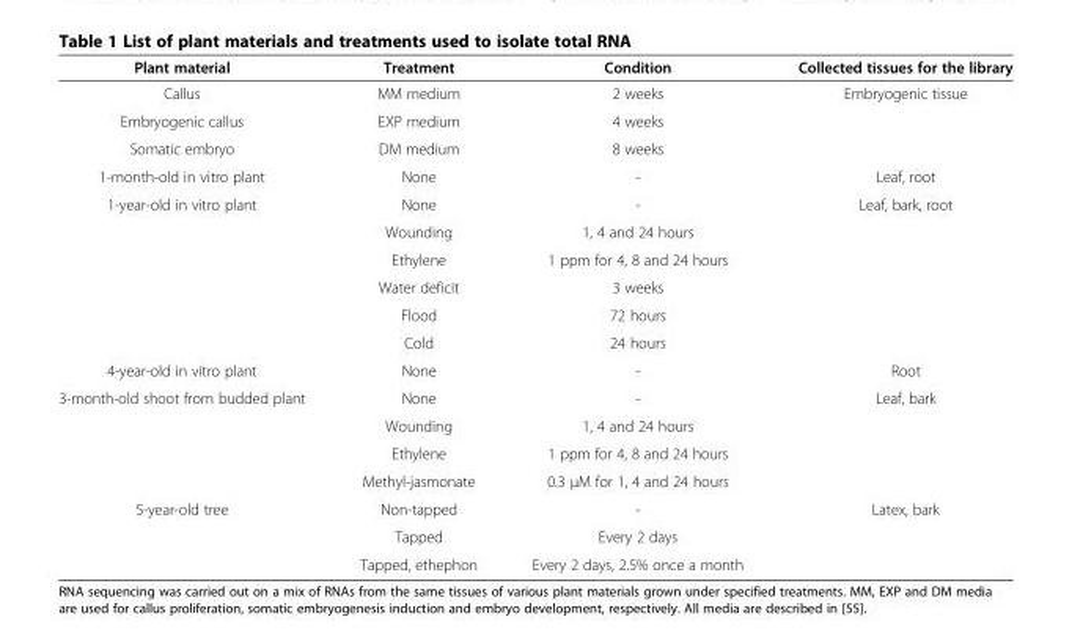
<table><thead><tr><td>Plant material</td><td>Treatment</td><td>Condition</td><td>Collected tissues for the library</td></tr></thead><tbody><tr><td>Callus</td><td>MM medium</td><td>2 weeks</td><td>Embryogenic tissue</td></tr><tr><td>Embryogenic callus</td><td>EXP medium</td><td>4 weeks</td><td></td></tr><tr><td>Somatic embryo</td><td>DM medium</td><td>8 weeks</td><td></td></tr><tr><td>1-month-old in vitro plant</td><td>None</td><td>-</td><td>Leaf, root</td></tr><tr><td rowspan="6">1-year-old in vitro plant</td><td>None</td><td>-</td><td>Leaf, bark, root</td></tr><tr><td>Wounding</td><td>1, 4 and 24 hours</td><td></td></tr><tr><td>Ethylene</td><td>1 ppm for 4, 8 and 24 hours</td><td></td></tr><tr><td>Water deficit</td><td>3 weeks</td><td></td></tr><tr><td>Flood</td><td>72 hours</td><td></td></tr><tr><td>Cold</td><td>24 hours</td><td></td></tr><tr><td>4-year-old in vitro plant</td><td>None</td><td>-</td><td>Root</td></tr><tr><td rowspan="4">3-month-old shoot from budded plant</td><td>None</td><td>-</td><td>Leaf, bark</td></tr><tr><td>Wounding</td><td>1, 4 and 24 hours</td><td></td></tr><tr><td>Ethylene</td><td>1 ppm for 4, 8 and 24 hours</td><td></td></tr><tr><td>Methyl-jasmonate</td><td>0.3 μM for 1, 4 and 24 hours</td><td></td></tr><tr><td rowspan="3">5-year-old tree</td><td>Non-tapped</td><td>-</td><td>Latex, bark</td></tr><tr><td>Tapped</td><td>Every 2 days</td><td></td></tr><tr><td>Tapped, ethephon</td><td>Every 2 days, 2.5% once a month</td><td></td></tr></tbody></table>